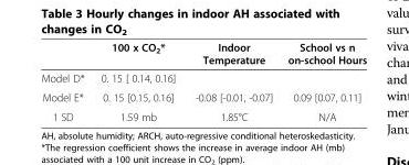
<table><thead><tr><td></td><td>100 x CO<sub>2</sub>*</td><td>Indoor Temperature</td><td>School vs n on-school Hours</td></tr></thead><tbody><tr><td>Model D*</td><td>0. 15 [ 0.14, 0.16]</td><td></td><td></td></tr><tr><td>Model E*</td><td>0. 15 [0.15, 0.16]</td><td>-0.08 [-0.01, -0.07]</td><td>0.09 [0.07, 0.11]</td></tr><tr><td>1 SD</td><td>1.59 mb</td><td>1.85°C</td><td>N/A</td></tr></tbody></table>